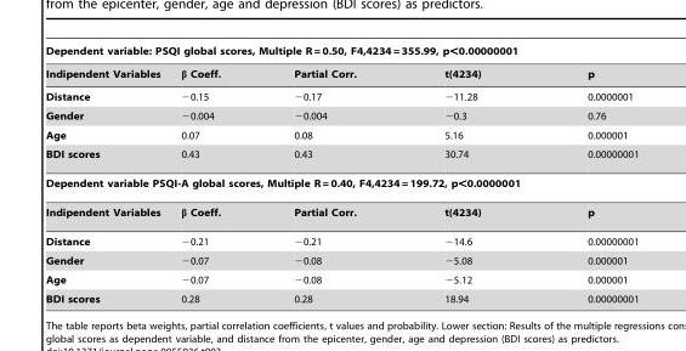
<table><thead><tr><td colspan="5">Dependent variable: PSQI global scores, Multiple R = 0.50, F4,4234 = 355.99, p&lt;0.00000001</td></tr><tr><td>Indipendent Variables</td><td>β Coeff.</td><td>Partial Corr.</td><td>t(4234)</td><td>p</td></tr></thead><tbody><tr><td>Distance</td><td>−0.15</td><td>−0.17</td><td>−11.28</td><td>0.0000001</td></tr><tr><td>Gender</td><td>−0.004</td><td>−0.004</td><td>−0.3</td><td>0.76</td></tr><tr><td>Age</td><td>0.07</td><td>0.08</td><td>5.16</td><td>0.000001</td></tr><tr><td>BDI scores</td><td>0.43</td><td>0.43</td><td>30.74</td><td>0.00000001</td></tr><tr><td colspan="5">Dependent variable PSQI-A global scores, Multiple R = 0.40, F4,4234 = 199.72, p&lt;0.0000001</td></tr><tr><td>Indipendent Variables</td><td>β Coeff.</td><td>Partial Corr.</td><td>t(4234)</td><td>p</td></tr><tr><td>Distance</td><td>−0.21</td><td>−0.21</td><td>−14.6</td><td>0.00000001</td></tr><tr><td>Gender</td><td>−0.07</td><td>−0.08</td><td>−5.08</td><td>0.000001</td></tr><tr><td>Age</td><td>−0.07</td><td>−0.08</td><td>−5.12</td><td>0.000001</td></tr><tr><td>BDI scores</td><td>0.28</td><td>0.28</td><td>18.94</td><td>0.00000001</td></tr></tbody></table>